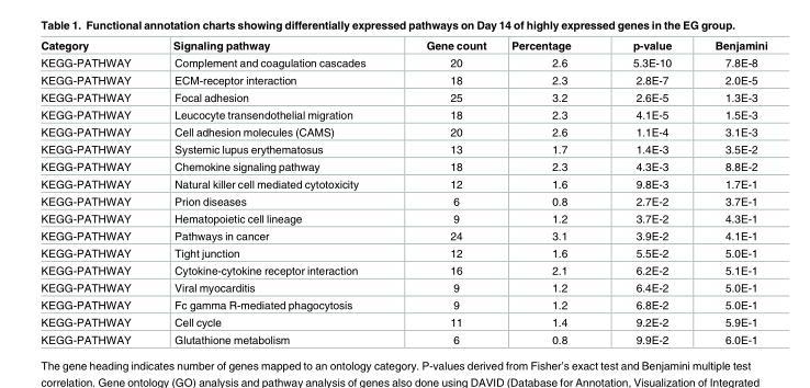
<table><thead><tr><td>Category</td><td>Signaling pathway</td><td>Gene count</td><td>Percentage</td><td>p-value</td><td>Benjamini</td></tr></thead><tbody><tr><td>KEGG-PATHWAY</td><td>Complement and coagulation cascades</td><td>20</td><td>2.6</td><td>5.3E-10</td><td>7.8E-8</td></tr><tr><td>KEGG-PATHWAY</td><td>ECM-receptor interaction</td><td>18</td><td>2.3</td><td>2.8E-7</td><td>2.0E-5</td></tr><tr><td>KEGG-PATHWAY</td><td>Focal adhesion</td><td>25</td><td>3.2</td><td>2.6E-5</td><td>1.3E-3</td></tr><tr><td>KEGG-PATHWAY</td><td>Leucocyte transendothelial migration</td><td>18</td><td>2.3</td><td>4.1E-5</td><td>1.5E-3</td></tr><tr><td>KEGG-PATHWAY</td><td>Cell adhesion molecules (CAMS)</td><td>20</td><td>2.6</td><td>1.1E-4</td><td>3.1E-3</td></tr><tr><td>KEGG-PATHWAY</td><td>Systemic lupus erythematosus</td><td>13</td><td>1.7</td><td>1.4E-3</td><td>3.5E-2</td></tr><tr><td>KEGG-PATHWAY</td><td>Chemokine signaling pathway</td><td>18</td><td>2.3</td><td>4.3E-3</td><td>8.8E-2</td></tr><tr><td>KEGG-PATHWAY</td><td>Natural killer cell mediated cytotoxicity</td><td>12</td><td>1.6</td><td>9.8E-3</td><td>1.7E-1</td></tr><tr><td>KEGG-PATHWAY</td><td>Prion diseases</td><td>6</td><td>0.8</td><td>2.7E-2</td><td>3.7E-1</td></tr><tr><td>KEGG-PATHWAY</td><td>Hematopoietic cell lineage</td><td>9</td><td>1.2</td><td>3.7E-2</td><td>4.3E-1</td></tr><tr><td>KEGG-PATHWAY</td><td>Pathways in cancer</td><td>24</td><td>3.1</td><td>3.9E-2</td><td>4.1E-1</td></tr><tr><td>KEGG-PATHWAY</td><td>Tight junction</td><td>12</td><td>1.6</td><td>5.5E-2</td><td>5.0E-1</td></tr><tr><td>KEGG-PATHWAY</td><td>Cytokine-cytokine receptor interaction</td><td>16</td><td>2.1</td><td>6.2E-2</td><td>5.1E-1</td></tr><tr><td>KEGG-PATHWAY</td><td>Viral myocarditis</td><td>9</td><td>1.2</td><td>6.4E-2</td><td>5.0E-1</td></tr><tr><td>KEGG-PATHWAY</td><td>Fc gamma R-mediated phagocytosis</td><td>9</td><td>1.2</td><td>6.8E-2</td><td>5.0E-1</td></tr><tr><td>KEGG-PATHWAY</td><td>Cell cycle</td><td>11</td><td>1.4</td><td>9.2E-2</td><td>5.9E-1</td></tr><tr><td>KEGG-PATHWAY</td><td>Glutathione metabolism</td><td>6</td><td>0.8</td><td>9.9E-2</td><td>6.0E-1</td></tr></tbody></table>